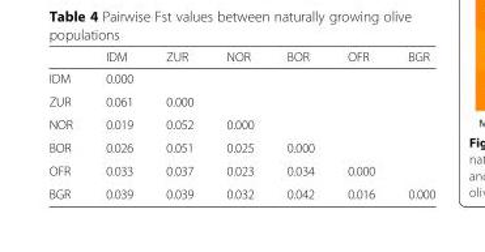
<table><thead><tr><td></td><td>IDM</td><td>ZUR</td><td>NOR</td><td>BOR</td><td>OFR</td><td>BGR</td></tr></thead><tbody><tr><td>IDM</td><td>0.000</td><td></td><td></td><td></td><td></td><td></td></tr><tr><td>ZUR</td><td>0.061</td><td>0.000</td><td></td><td></td><td></td><td></td></tr><tr><td>NOR</td><td>0.019</td><td>0.052</td><td>0.000</td><td></td><td></td><td></td></tr><tr><td>BOR</td><td>0.026</td><td>0.051</td><td>0.025</td><td>0.000</td><td></td><td></td></tr><tr><td>OFR</td><td>0.033</td><td>0.037</td><td>0.023</td><td>0.034</td><td>0.000</td><td></td></tr><tr><td>BGR</td><td>0.039</td><td>0.039</td><td>0.032</td><td>0.042</td><td>0.016</td><td>0.000</td></tr></tbody></table>